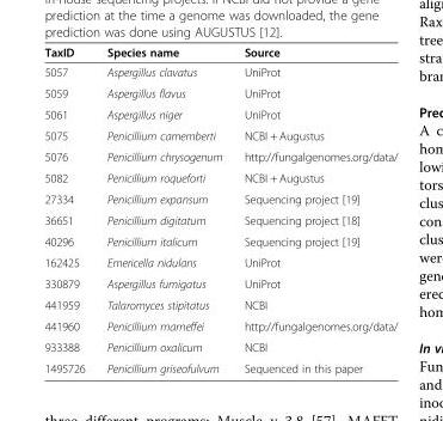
<table><thead><tr><td>TaxID</td><td>Species name</td><td>Source</td></tr></thead><tbody><tr><td>5057</td><td>Aspergillus clavatus</td><td>UniProt</td></tr><tr><td>5059</td><td>Aspergillus flavus</td><td>UniProt</td></tr><tr><td>5061</td><td>Aspergillus niger</td><td>UniProt</td></tr><tr><td>5075</td><td>Penicillium camemberti</td><td>NCBI + Augustus</td></tr><tr><td>5076</td><td>Penicillium chrysogenum</td><td>http://fungalgenomes.org/data/</td></tr><tr><td>5082</td><td>Penicillium roqueforti</td><td>NCBI + Augustus</td></tr><tr><td>27334</td><td>Penicillium expansum</td><td>Sequencing project [19]</td></tr><tr><td>36651</td><td>Penicillium digitatum</td><td>Sequencing project [18]</td></tr><tr><td>40296</td><td>Penicillium italicum</td><td>Sequencing project [19]</td></tr><tr><td>162425</td><td>Emericella nidulans</td><td>UniProt</td></tr><tr><td>330879</td><td>Aspergillus fumigatus</td><td>UniProt</td></tr><tr><td>441959</td><td>Talaromyces stipitatus</td><td>NCBI</td></tr><tr><td>441960</td><td>Penicillium marneffei</td><td>http://fungalgenomes.org/data/</td></tr><tr><td>933388</td><td>Penicillium oxalicum</td><td>NCBI</td></tr><tr><td>1495726</td><td>Penicillium griseofulvum</td><td>Sequenced in this paper</td></tr></tbody></table>